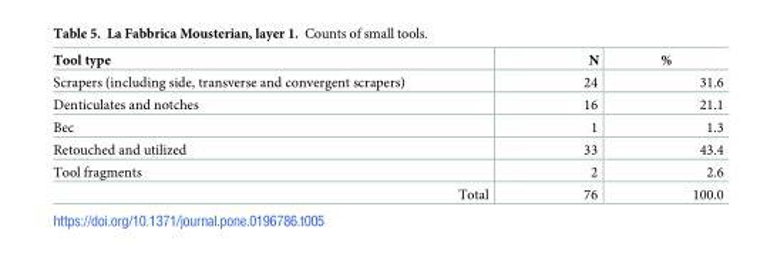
<table><thead><tr><td>Tool type</td><td>N</td><td>%</td></tr></thead><tbody><tr><td>Scrapers (including side, transverse and convergent scrapers)</td><td>24</td><td>31.6</td></tr><tr><td>Denticulates and notches</td><td>16</td><td>21.1</td></tr><tr><td>Bec</td><td>1</td><td>1.3</td></tr><tr><td>Retouched and utilized</td><td>33</td><td>43.4</td></tr><tr><td>Tool fragments</td><td>2</td><td>2.6</td></tr><tr><td>Total</td><td>76</td><td>100.0</td></tr></tbody></table>